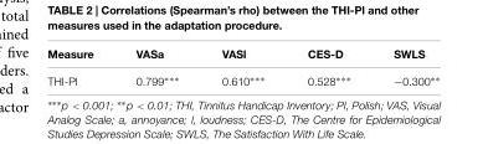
<table><thead><tr><td>Measure</td><td>VASa</td><td>VASl</td><td>CES-D</td><td>SWLS</td></tr></thead><tbody><tr><td>THI-Pl</td><td>0.799∗∗∗</td><td>0.610∗∗∗</td><td>0.528∗∗∗</td><td>−0.300∗∗</td></tr></tbody></table>